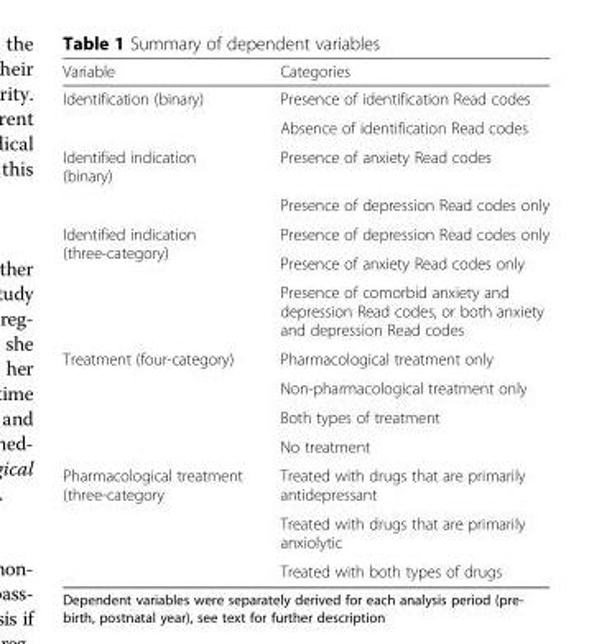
<table><thead><tr><td>Variable</td><td>Categories</td></tr></thead><tbody><tr><td rowspan="2">Identification (binary)</td><td>Presence of identification Read codes</td></tr><tr><td>Absence of identification Read codes</td></tr><tr><td rowspan="2">Identified indication (binary)</td><td>Presence of anxiety Read codes</td></tr><tr><td>Presence of depression Read codes only</td></tr><tr><td rowspan="3">Identified indication (three-category)</td><td>Presence of depression Read codes only</td></tr><tr><td>Presence of anxiety Read codes only</td></tr><tr><td>Presence of comorbid anxiety and depression Read codes, or both anxiety and depression Read codes</td></tr><tr><td rowspan="4">Treatment (four-category)</td><td>Pharmacological treatment only</td></tr><tr><td>Non-pharmacological treatment only</td></tr><tr><td>Both types of treatment</td></tr><tr><td>No treatment</td></tr><tr><td rowspan="3">Pharmacological treatment (three-category</td><td>Treated with drugs that are primarily antidepressant</td></tr><tr><td>Treated with drugs that are primarily anxiolytic</td></tr><tr><td>Treated with both types of drugs</td></tr></tbody></table>